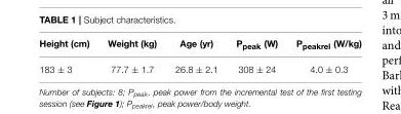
<table><thead><tr><td>Height (cm)</td><td>Weight (kg)</td><td>Age (yr)</td><td>P<sub>peak</sub> (W)</td><td>P<sub>peakrel</sub> (W/kg)</td></tr></thead><tbody><tr><td>183 ± 3</td><td>77.7 ± 1.7</td><td>26.8 ± 2.1</td><td>308 ± 24</td><td>4.0 ± 0.3</td></tr></tbody></table>